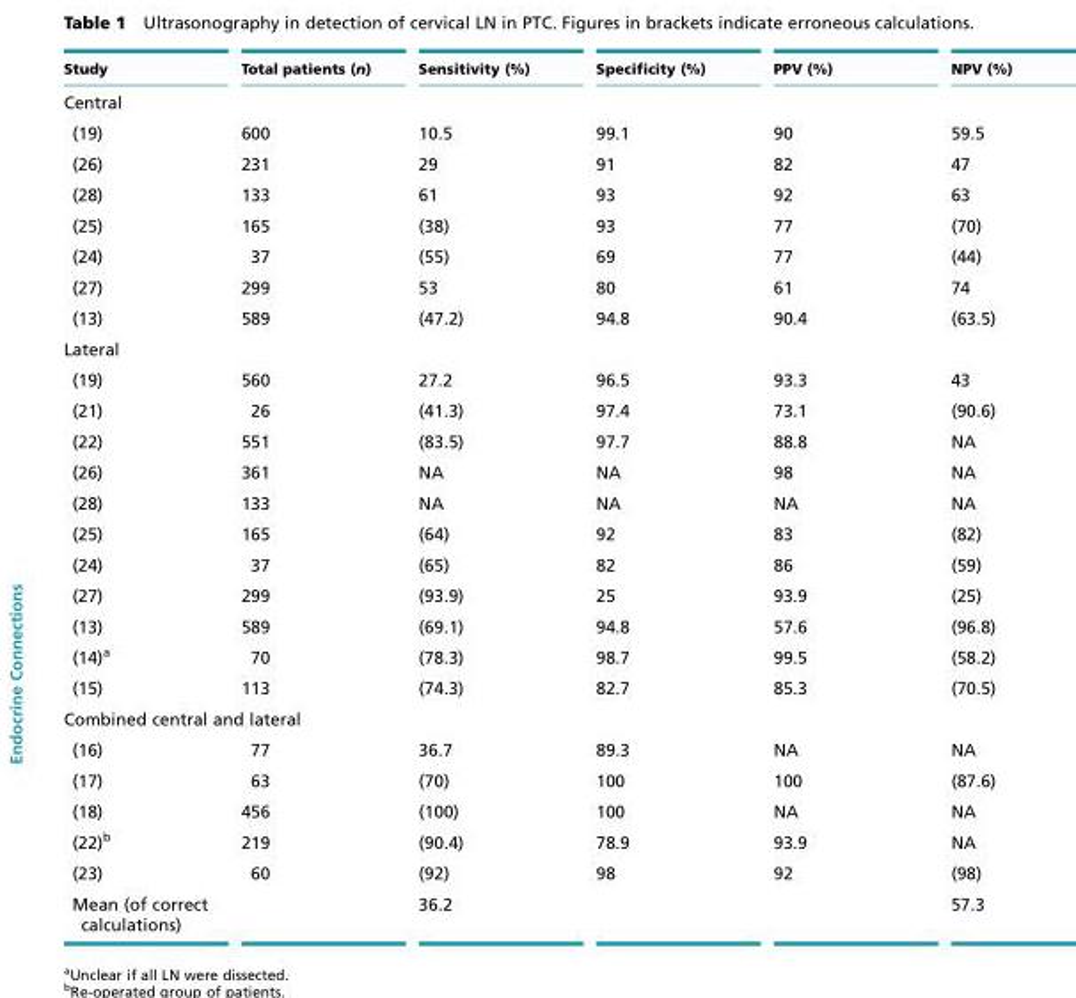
<table><thead><tr><td>Study</td><td>Total patients (n)</td><td>Sensitivity (%)</td><td>Specificity (%)</td><td>PPV (%)</td><td>NPV (%)</td></tr></thead><tbody><tr><td colspan="6">Central</td></tr><tr><td>(19)</td><td>600</td><td>10.5</td><td>99.1</td><td>90</td><td>59.5</td></tr><tr><td>(26)</td><td>231</td><td>29</td><td>91</td><td>82</td><td>47</td></tr><tr><td>(28)</td><td>133</td><td>61</td><td>93</td><td>92</td><td>63</td></tr><tr><td>(25)</td><td>165</td><td>(38)</td><td>93</td><td>77</td><td>(70)</td></tr><tr><td>(24)</td><td>37</td><td>(55)</td><td>69</td><td>77</td><td>(44)</td></tr><tr><td>(27)</td><td>299</td><td>53</td><td>80</td><td>61</td><td>74</td></tr><tr><td>(13)</td><td>589</td><td>(47.2)</td><td>94.8</td><td>90.4</td><td>(63.5)</td></tr><tr><td colspan="6">Lateral</td></tr><tr><td>(19)</td><td>560</td><td>27.2</td><td>96.5</td><td>93.3</td><td>43</td></tr><tr><td>(21)</td><td>26</td><td>(41.3)</td><td>97.4</td><td>73.1</td><td>(90.6)</td></tr><tr><td>(22)</td><td>551</td><td>(83.5)</td><td>97.7</td><td>88.8</td><td>NA</td></tr><tr><td>(26)</td><td>361</td><td>NA</td><td>NA</td><td>98</td><td>NA</td></tr><tr><td>(28)</td><td>133</td><td>NA</td><td>NA</td><td>NA</td><td>NA</td></tr><tr><td>(25)</td><td>165</td><td>(64)</td><td>92</td><td>83</td><td>(82)</td></tr><tr><td>(24)</td><td>37</td><td>(65)</td><td>82</td><td>86</td><td>(59)</td></tr><tr><td>(27)</td><td>299</td><td>(93.9)</td><td>25</td><td>93.9</td><td>(25)</td></tr><tr><td>(13)</td><td>589</td><td>(69.1)</td><td>94.8</td><td>57.6</td><td>(96.8)</td></tr><tr><td>(14)a</td><td>70</td><td>(78.3)</td><td>98.7</td><td>99.5</td><td>(58.2)</td></tr><tr><td>(15)</td><td>113</td><td>(74.3)</td><td>82.7</td><td>85.3</td><td>(70.5)</td></tr><tr><td colspan="6">Combined central and lateral</td></tr><tr><td>(16)</td><td>77</td><td>36.7</td><td>89.3</td><td>NA</td><td>NA</td></tr><tr><td>(17)</td><td>63</td><td>(70)</td><td>100</td><td>100</td><td>(87.6)</td></tr><tr><td>(18)</td><td>456</td><td>(100)</td><td>100</td><td>NA</td><td>NA</td></tr><tr><td>(22)b</td><td>219</td><td>(90.4)</td><td>78.9</td><td>93.9</td><td>NA</td></tr><tr><td>(23)</td><td>60</td><td>(92)</td><td>98</td><td>92</td><td>(98)</td></tr><tr><td>Mean (of correct calculations)</td><td></td><td>36.2</td><td></td><td></td><td>57.3</td></tr></tbody></table>